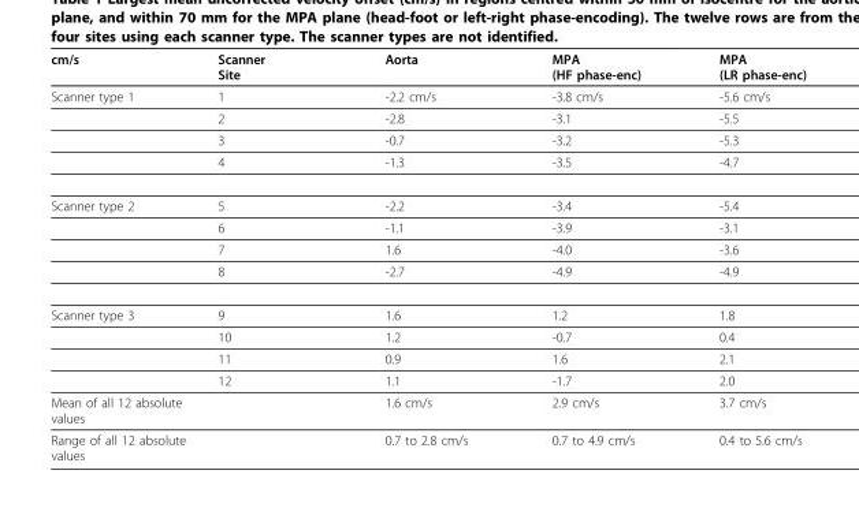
<table><thead><tr><td>cm/s</td><td>Scanner Site</td><td>Aorta</td><td>MPA (HF phase-enc)</td><td>MPA (LR phase-enc)</td></tr></thead><tbody><tr><td rowspan="4">Scanner type 1</td><td>1</td><td>-2.2 cm/s</td><td>-3.8 cm/s</td><td>-5.6 cm/s</td></tr><tr><td>2</td><td>-2.8</td><td>-3.1</td><td>-5.5</td></tr><tr><td>3</td><td>-0.7</td><td>-3.2</td><td>-5.3</td></tr><tr><td>4</td><td>-1.3</td><td>-3.5</td><td>-4.7</td></tr><tr><td rowspan="4">Scanner type 2</td><td>5</td><td>-2.2</td><td>-3.4</td><td>-5.4</td></tr><tr><td>6</td><td>-1.1</td><td>-3.9</td><td>-3.1</td></tr><tr><td>7</td><td>1.6</td><td>-4.0</td><td>-3.6</td></tr><tr><td>8</td><td>-2.7</td><td>-4.9</td><td>-4.9</td></tr><tr><td rowspan="4">Scanner type 3</td><td>9</td><td>1.6</td><td>1.2</td><td>1.8</td></tr><tr><td>10</td><td>1.2</td><td>-0.7</td><td>0.4</td></tr><tr><td>11</td><td>0.9</td><td>1.6</td><td>2.1</td></tr><tr><td>12</td><td>1.1</td><td>-1.7</td><td>2.0</td></tr><tr><td>Mean of all 12 absolute values</td><td></td><td>1.6 cm/s</td><td>2.9 cm/s</td><td>3.7 cm/s</td></tr><tr><td>Range of all 12 absolute values</td><td></td><td>0.7 to 2.8 cm/s</td><td>0.7 to 4.9 cm/s</td><td>0.4 to 5.6 cm/s</td></tr></tbody></table>